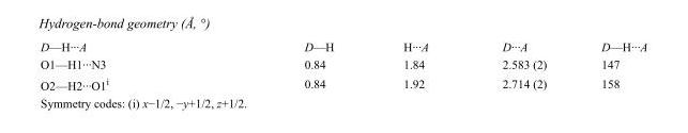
<table><tbody><tr><td>D—H···A</td><td>D—H</td><td>H···A</td><td>D···A</td><td>D—H···A</td></tr><tr><td>O1—H1···N3</td><td>0.84</td><td>1.84</td><td>2.583 (2)</td><td>147</td></tr><tr><td>O2—H2···O1<sup>i</sup></td><td>0.84</td><td>1.92</td><td>2.714 (2)</td><td>158</td></tr></tbody></table>